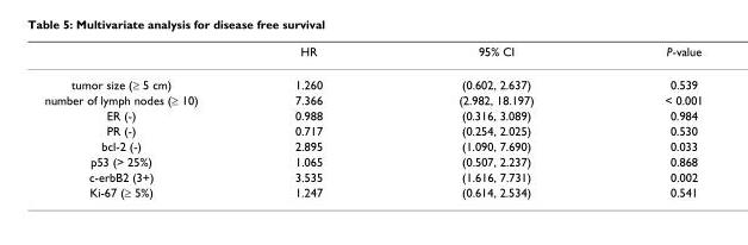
<table><thead><tr><td></td><td>HR</td><td>95% CI</td><td>P-value</td></tr></thead><tbody><tr><td>tumor size (≥ 5 cm)</td><td>1.260</td><td>(0.602, 2.637)</td><td>0.539</td></tr><tr><td>number of lymph nodes (≥ 10)</td><td>7.366</td><td>(2.982, 18.197)</td><td>&lt; 0.001</td></tr><tr><td>ER (-)</td><td>0.988</td><td>(0.316, 3.089)</td><td>0.984</td></tr><tr><td>PR (-)</td><td>0.717</td><td>(0.254, 2.025)</td><td>0.530</td></tr><tr><td>bcl-2 (-)</td><td>2.895</td><td>(1.090, 7.690)</td><td>0.033</td></tr><tr><td>p53 (&gt; 25%)</td><td>1.065</td><td>(0.507, 2.237)</td><td>0.868</td></tr><tr><td>c-erbB2 (3+)</td><td>3.535</td><td>(1.616, 7.731)</td><td>0.002</td></tr><tr><td>Ki-67 (≥ 5%)</td><td>1.247</td><td>(0.614, 2.534)</td><td>0.541</td></tr></tbody></table>